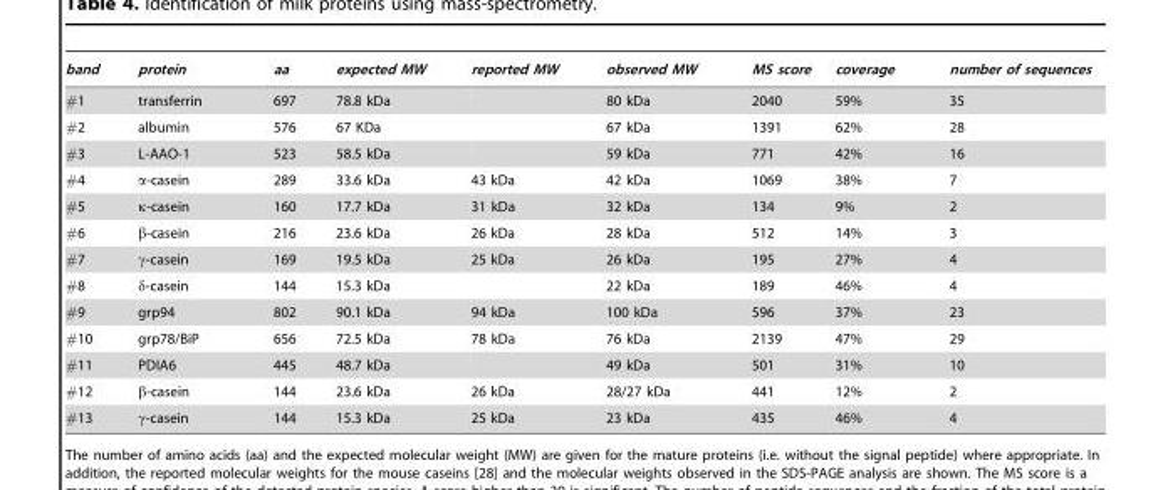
<table><thead><tr><td>band</td><td>protein</td><td>aa</td><td>expected MW</td><td>reported MW</td><td>observed MW</td><td>MS score</td><td>coverage</td><td>number of sequences</td></tr></thead><tbody><tr><td>#1</td><td>transferrin</td><td>697</td><td>78.8 kDa</td><td></td><td>80 kDa</td><td>2040</td><td>59%</td><td>35</td></tr><tr><td>#2</td><td>albumin</td><td>576</td><td>67 KDa</td><td></td><td>67 kDa</td><td>1391</td><td>62%</td><td>28</td></tr><tr><td>#3</td><td>L-AAO-1</td><td>523</td><td>58.5 kDa</td><td></td><td>59 kDa</td><td>771</td><td>42%</td><td>16</td></tr><tr><td>#4</td><td>α-casein</td><td>289</td><td>33.6 kDa</td><td>43 kDa</td><td>42 kDa</td><td>1069</td><td>38%</td><td>7</td></tr><tr><td>#5</td><td>κ-casein</td><td>160</td><td>17.7 kDa</td><td>31 kDa</td><td>32 kDa</td><td>134</td><td>9%</td><td>2</td></tr><tr><td>#6</td><td>β-casein</td><td>216</td><td>23.6 kDa</td><td>26 kDa</td><td>28 kDa</td><td>512</td><td>14%</td><td>3</td></tr><tr><td>#7</td><td>γ-casein</td><td>169</td><td>19.5 kDa</td><td>25 kDa</td><td>26 kDa</td><td>195</td><td>27%</td><td>4</td></tr><tr><td>#8</td><td>δ-casein</td><td>144</td><td>15.3 kDa</td><td></td><td>22 kDa</td><td>189</td><td>46%</td><td>4</td></tr><tr><td>#9</td><td>grp94</td><td>802</td><td>90.1 kDa</td><td>94 kDa</td><td>100 kDa</td><td>596</td><td>37%</td><td>23</td></tr><tr><td>#10</td><td>grp78/BiP</td><td>656</td><td>72.5 kDa</td><td>78 kDa</td><td>76 kDa</td><td>2139</td><td>47%</td><td>29</td></tr><tr><td>#11</td><td>PDIA6</td><td>445</td><td>48.7 kDa</td><td></td><td>49 kDa</td><td>501</td><td>31%</td><td>10</td></tr><tr><td>#12</td><td>β-casein</td><td>144</td><td>23.6 kDa</td><td>26 kDa</td><td>28/27 kDa</td><td>441</td><td>12%</td><td>2</td></tr><tr><td>#13</td><td>γ-casein</td><td>144</td><td>15.3 kDa</td><td>25 kDa</td><td>23 kDa</td><td>435</td><td>46%</td><td>4</td></tr></tbody></table>